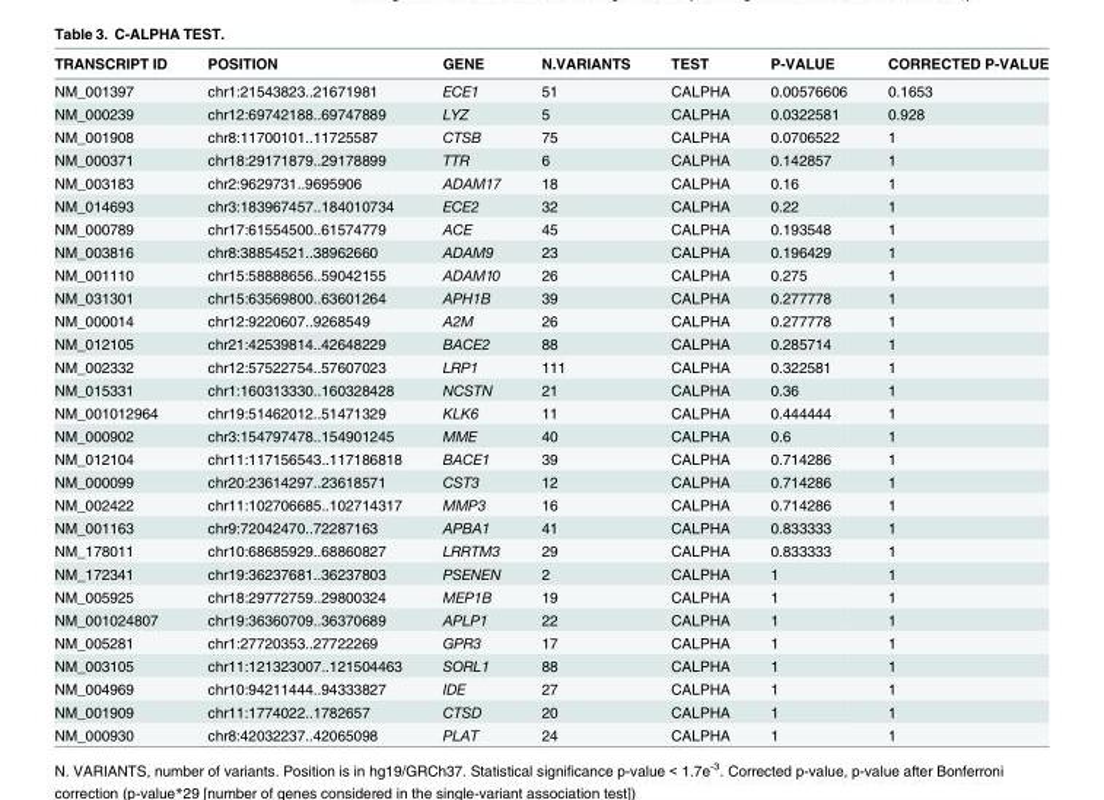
<table><thead><tr><td>TRANSCRIPT ID</td><td>POSITION</td><td>GENE</td><td>N.VARIANTS</td><td>TEST</td><td>P-VALUE</td><td>CORRECTED P-VALUE</td></tr></thead><tbody><tr><td>NM_001397</td><td>chr1:21543823..21671981</td><td>ECE1</td><td>51</td><td>CALPHA</td><td>0.00576606</td><td>0.1653</td></tr><tr><td>NM_000239</td><td>chr12:69742188..69747889</td><td>LYZ</td><td>5</td><td>CALPHA</td><td>0.0322581</td><td>0.928</td></tr><tr><td>NM_001908</td><td>chr8:11700101..11725587</td><td>CTSB</td><td>75</td><td>CALPHA</td><td>0.0706522</td><td>1</td></tr><tr><td>NM_000371</td><td>chr18:29171879..29178899</td><td>TTR</td><td>6</td><td>CALPHA</td><td>0.142857</td><td>1</td></tr><tr><td>NM_003183</td><td>chr2:9629731..9695906</td><td>ADAM17</td><td>18</td><td>CALPHA</td><td>0.16</td><td>1</td></tr><tr><td>NM_014693</td><td>chr3:183967457..184010734</td><td>ECE2</td><td>32</td><td>CALPHA</td><td>0.22</td><td>1</td></tr><tr><td>NM_000789</td><td>chr17:61554500..61574779</td><td>ACE</td><td>45</td><td>CALPHA</td><td>0.193548</td><td>1</td></tr><tr><td>NM_003816</td><td>chr8:38854521..38962660</td><td>ADAM9</td><td>23</td><td>CALPHA</td><td>0.196429</td><td>1</td></tr><tr><td>NM_001110</td><td>chr15:58888656..59042155</td><td>ADAM10</td><td>26</td><td>CALPHA</td><td>0.275</td><td>1</td></tr><tr><td>NM_031301</td><td>chr15:63569800..63601264</td><td>APH1B</td><td>39</td><td>CALPHA</td><td>0.277778</td><td>1</td></tr><tr><td>NM_000014</td><td>chr12:9220607..9268549</td><td>A2M</td><td>26</td><td>CALPHA</td><td>0.277778</td><td>1</td></tr><tr><td>NM_012105</td><td>chr21:42539814..42648229</td><td>BACE2</td><td>88</td><td>CALPHA</td><td>0.285714</td><td>1</td></tr><tr><td>NM_002332</td><td>chr12:57522754..57607023</td><td>LRP1</td><td>111</td><td>CALPHA</td><td>0.322581</td><td>1</td></tr><tr><td>NM_015331</td><td>chr1:160313330..160328428</td><td>NCSTN</td><td>21</td><td>CALPHA</td><td>0.36</td><td>1</td></tr><tr><td>NM_001012964</td><td>chr19:51462012..51471329</td><td>KLK6</td><td>11</td><td>CALPHA</td><td>0.444444</td><td>1</td></tr><tr><td>NM_000902</td><td>chr3:154797478..154901245</td><td>MME</td><td>40</td><td>CALPHA</td><td>0.6</td><td>1</td></tr><tr><td>NM_012104</td><td>chr11:117156543..117186818</td><td>BACE1</td><td>39</td><td>CALPHA</td><td>0.714286</td><td>1</td></tr><tr><td>NM_000099</td><td>chr20:23614297..23618571</td><td>CST3</td><td>12</td><td>CALPHA</td><td>0.714286</td><td>1</td></tr><tr><td>NM_002422</td><td>chr11:102706685..102714317</td><td>MMP3</td><td>16</td><td>CALPHA</td><td>0.714286</td><td>1</td></tr><tr><td>NM_001163</td><td>chr9:72042470..72287163</td><td>APBA1</td><td>41</td><td>CALPHA</td><td>0.833333</td><td>1</td></tr><tr><td>NM_178011</td><td>chr10:68685929..68860827</td><td>LRRTM3</td><td>29</td><td>CALPHA</td><td>0.833333</td><td>1</td></tr><tr><td>NM_172341</td><td>chr19:36237681..36237803</td><td>PSENEN</td><td>2</td><td>CALPHA</td><td>1</td><td>1</td></tr><tr><td>NM_005925</td><td>chr18:29772759..29800324</td><td>MEP1B</td><td>19</td><td>CALPHA</td><td>1</td><td>1</td></tr><tr><td>NM_001024807</td><td>chr19:36360709..36370689</td><td>APLP1</td><td>22</td><td>CALPHA</td><td>1</td><td>1</td></tr><tr><td>NM_005281</td><td>chr1:27720353..27722269</td><td>GPR3</td><td>17</td><td>CALPHA</td><td>1</td><td>1</td></tr><tr><td>NM_003105</td><td>chr11:121323007..121504463</td><td>SORL1</td><td>88</td><td>CALPHA</td><td>1</td><td>1</td></tr><tr><td>NM_004969</td><td>chr10:94211444..94333827</td><td>IDE</td><td>27</td><td>CALPHA</td><td>1</td><td>1</td></tr><tr><td>NM_001909</td><td>chr11:1774022..1782657</td><td>CTSD</td><td>20</td><td>CALPHA</td><td>1</td><td>1</td></tr><tr><td>NM_000930</td><td>chr8:42032237..42065098</td><td>PLAT</td><td>24</td><td>CALPHA</td><td>1</td><td>1</td></tr></tbody></table>